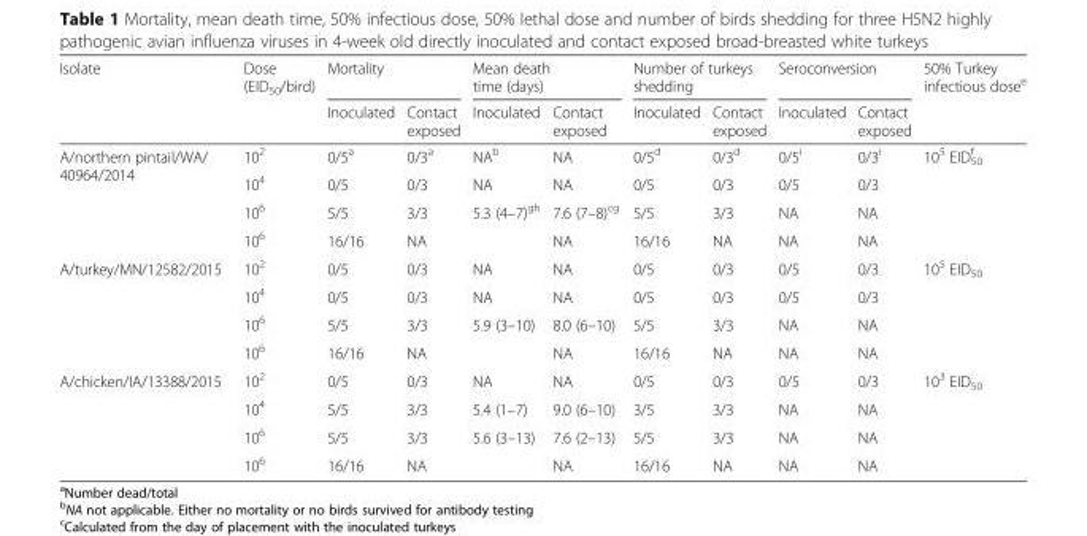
<table><thead><tr><td rowspan="2">Isolate</td><td rowspan="2">Dose (EID<sub>50</sub>/bird)</td><td colspan="2">Mortality</td><td colspan="2">Mean death time (days)</td><td colspan="2">Number of turkeys shedding</td><td colspan="2">Seroconversion</td><td rowspan="2">50% Turkey infectious dose<sup>e</sup></td></tr><tr><td>Inoculated</td><td>Contact exposed</td><td>Inoculated</td><td>Contact exposed</td><td>Inoculated</td><td>Contact exposed</td><td>Inoculated</td><td>Contact exposed</td></tr></thead><tbody><tr><td rowspan="4">A/northern pintail/WA/ 40964/2014</td><td>10<sup>2</sup></td><td>0/5<sup>a</sup></td><td>0/3<sup>a</sup></td><td>NA<sup>b</sup></td><td>NA</td><td>0/5<sup>d</sup></td><td>0/3<sup>d</sup></td><td>0/5<sup>i</sup></td><td>0/3<sup>i</sup></td><td rowspan="4">10<sup>5</sup> EID<sub>50</sub> <sup>f</sup></td></tr><tr><td>10<sup>4</sup></td><td>0/5</td><td>0/3</td><td>NA</td><td>NA</td><td>0/5</td><td>0/3</td><td>0/5</td><td>0/3</td></tr><tr><td>10<sup>6</sup></td><td>5/5</td><td>3/3</td><td rowspan="2">5.3 (4–7)<sup>gh</sup></td><td>7.6 (7–8)<sup>cg</sup></td><td>5/5</td><td>3/3</td><td>NA</td><td>NA</td></tr><tr><td>10<sup>6</sup></td><td>16/16</td><td>NA</td><td>NA</td><td>16/16</td><td>NA</td><td>NA</td><td>NA</td></tr><tr><td rowspan="4">A/turkey/MN/12582/2015</td><td>10<sup>2</sup></td><td>0/5</td><td>0/3</td><td>NA</td><td>NA</td><td>0/5</td><td>0/3</td><td>0/5</td><td>0/3</td><td rowspan="4">10<sup>5</sup> EID<sub>50</sub></td></tr><tr><td>10<sup>4</sup></td><td>0/5</td><td>0/3</td><td>NA</td><td>NA</td><td>0/5</td><td>0/3</td><td>0/5</td><td>0/3</td></tr><tr><td>10<sup>6</sup></td><td>5/5</td><td>3/3</td><td rowspan="2">5.9 (3–10)</td><td>8.0 (6–10)</td><td>5/5</td><td>3/3</td><td>NA</td><td>NA</td></tr><tr><td>10<sup>6</sup></td><td>16/16</td><td>NA</td><td>NA</td><td>16/16</td><td>NA</td><td>NA</td><td>NA</td></tr><tr><td rowspan="4">A/chicken/IA/13388/2015</td><td>10<sup>2</sup></td><td>0/5</td><td>0/3</td><td>NA</td><td>NA</td><td>0/5</td><td>0/3</td><td>0/5</td><td>0/3</td><td rowspan="4">10<sup>3</sup> EID<sub>50</sub></td></tr><tr><td>10<sup>4</sup></td><td>5/5</td><td>3/3</td><td>5.4 (1–7)</td><td>9.0 (6–10)</td><td>3/5</td><td>3/3</td><td>NA</td><td>NA</td></tr><tr><td>10<sup>6</sup></td><td>5/5</td><td>3/3</td><td rowspan="2">5.6 (3–13)</td><td>7.6 (2–13)</td><td>5/5</td><td>3/3</td><td>NA</td><td>NA</td></tr><tr><td>10<sup>6</sup></td><td>16/16</td><td>NA</td><td>NA</td><td>16/16</td><td>NA</td><td>NA</td><td>NA</td></tr></tbody></table>